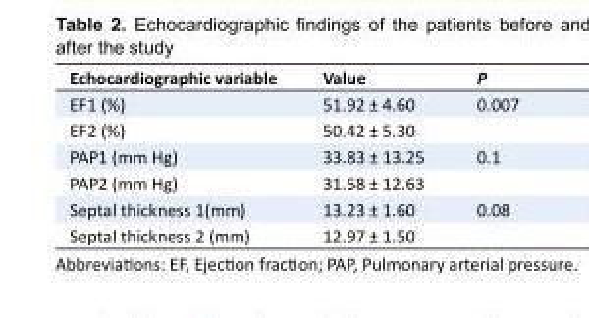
<table><tbody><tr><td>Echocardiographic variable</td><td>Value</td><td>P</td></tr><tr><td>EF1 (%)</td><td>51.92 ± 4.60</td><td>0.007</td></tr><tr><td>EF2 (%)</td><td>50.42 ± 5.30</td><td></td></tr><tr><td>PAP1 (mm Hg)</td><td>33.83 ± 13.25</td><td>0.1</td></tr><tr><td>PAP2 (mm Hg)</td><td>31.58 ± 12.63</td><td></td></tr><tr><td>Septal thickness 1(mm)</td><td>13.23 ± 1.60</td><td>0.08</td></tr><tr><td>Septal thickness 2 (mm)</td><td>12.97 ± 1.50</td><td></td></tr></tbody></table>